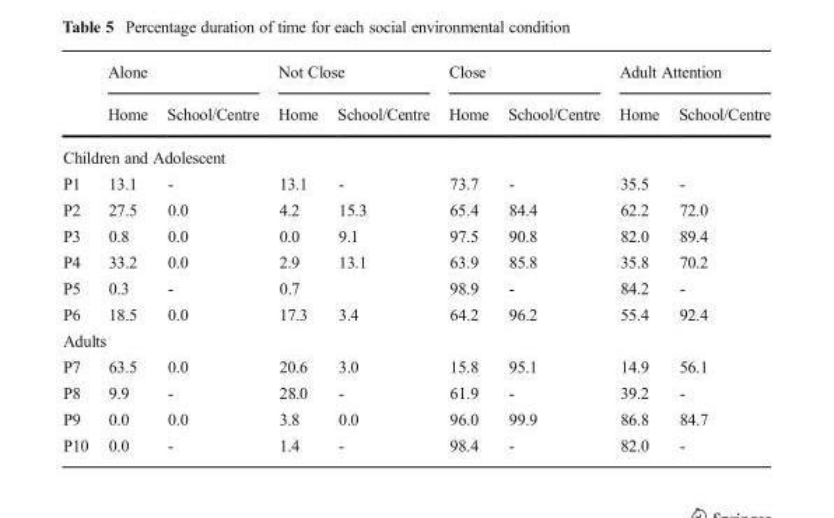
<table><thead><tr><td rowspan="2"></td><td colspan="2">Alone</td><td colspan="2">Not Close</td><td colspan="2">Close</td><td colspan="2">Adult Attention</td></tr><tr><td>Home</td><td>School/Centre</td><td>Home</td><td>School/Centre</td><td>Home</td><td>School/Centre</td><td>Home</td><td>School/Centre</td></tr></thead><tbody><tr><td colspan="9">Children and Adolescent</td></tr><tr><td>P1</td><td>13.1</td><td>-</td><td>13.1</td><td>-</td><td>73.7</td><td>-</td><td>35.5</td><td>-</td></tr><tr><td>P2</td><td>27.5</td><td>0.0</td><td>4.2</td><td>15.3</td><td>65.4</td><td>84.4</td><td>62.2</td><td>72.0</td></tr><tr><td>P3</td><td>0.8</td><td>0.0</td><td>0.0</td><td>9.1</td><td>97.5</td><td>90.8</td><td>82.0</td><td>89.4</td></tr><tr><td>P4</td><td>33.2</td><td>0.0</td><td>2.9</td><td>13.1</td><td>63.9</td><td>85.8</td><td>35.8</td><td>70.2</td></tr><tr><td>P5</td><td>0.3</td><td>-</td><td>0.7</td><td></td><td>98.9</td><td>-</td><td>84.2</td><td>-</td></tr><tr><td>P6</td><td>18.5</td><td>0.0</td><td>17.3</td><td>3.4</td><td>64.2</td><td>96.2</td><td>55.4</td><td>92.4</td></tr><tr><td colspan="9">Adults</td></tr><tr><td>P7</td><td>63.5</td><td>0.0</td><td>20.6</td><td>3.0</td><td>15.8</td><td>95.1</td><td>14.9</td><td>56.1</td></tr><tr><td>P8</td><td>9.9</td><td>-</td><td>28.0</td><td>-</td><td>61.9</td><td>-</td><td>39.2</td><td>-</td></tr><tr><td>P9</td><td>0.0</td><td>0.0</td><td>3.8</td><td>0.0</td><td>96.0</td><td>99.9</td><td>86.8</td><td>84.7</td></tr><tr><td>P10</td><td>0.0</td><td>-</td><td>1.4</td><td>-</td><td>98.4</td><td>-</td><td>82.0</td><td>-</td></tr></tbody></table>